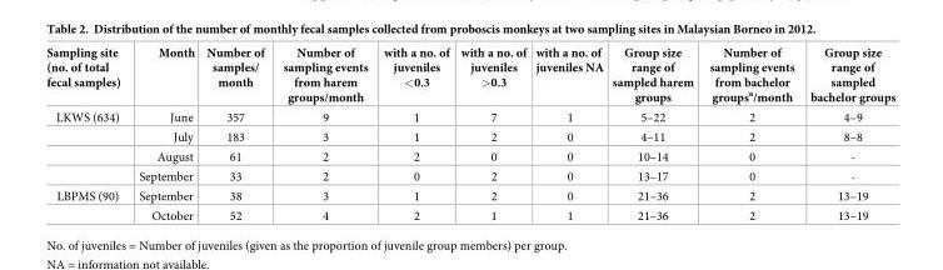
<table><thead><tr><td>Sampling site (no. of total fecal samples)</td><td>Month</td><td>Number of samples/ month</td><td>Number of sampling events from harem groups/month</td><td>with a no. of juveniles &lt;0.3</td><td>with a no. of juveniles &gt;0.3</td><td>with a no. of juveniles NA</td><td>Group size range of sampled harem groups</td><td>Number of sampling events from bachelor groups<sup>a</sup>/month</td><td>Group size range of sampled bachelor groups</td></tr></thead><tbody><tr><td rowspan="4">LKWS (634)</td><td>June</td><td>357</td><td>9</td><td>1</td><td>7</td><td>1</td><td>5–22</td><td>2</td><td>4–9</td></tr><tr><td>July</td><td>183</td><td>3</td><td>1</td><td>2</td><td>0</td><td>4–11</td><td>2</td><td>8–8</td></tr><tr><td>August</td><td>61</td><td>2</td><td>2</td><td>0</td><td>0</td><td>10–14</td><td>0</td><td>-</td></tr><tr><td>September</td><td>33</td><td>2</td><td>0</td><td>2</td><td>0</td><td>13–17</td><td>0</td><td>-</td></tr><tr><td rowspan="2">LBPMS (90)</td><td>September</td><td>38</td><td>3</td><td>1</td><td>2</td><td>0</td><td>21–36</td><td>2</td><td>13–19</td></tr><tr><td>October</td><td>52</td><td>4</td><td>2</td><td>1</td><td>1</td><td>21–36</td><td>2</td><td>13–19</td></tr></tbody></table>